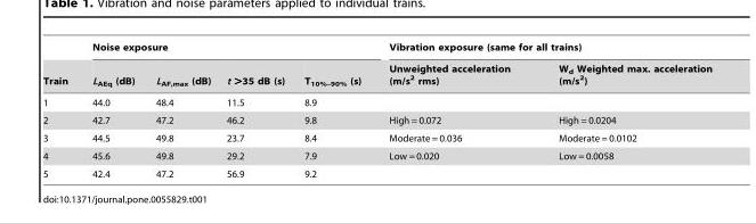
<table><thead><tr><td rowspan="2">Train</td><td colspan="4">Noise exposure</td><td colspan="2">Vibration exposure (same for all trains)</td></tr><tr><td>L<sub>AEq</sub> (dB)</td><td>L<sub>AF,max</sub> (dB)</td><td>t &gt;35 dB (s)</td><td>T<sub>10%–90%</sub> (s)</td><td>Unweighted acceleration (m/s<sup>2</sup> rms)</td><td>W<sub>d</sub> Weighted max. acceleration (m/s<sup>2</sup>)</td></tr></thead><tbody><tr><td>1</td><td>44.0</td><td>48.4</td><td>11.5</td><td>8.9</td><td></td><td></td></tr><tr><td>2</td><td>42.7</td><td>47.2</td><td>46.2</td><td>9.8</td><td>High = 0.072</td><td>High = 0.0204</td></tr><tr><td>3</td><td>44.5</td><td>49.8</td><td>23.7</td><td>8.4</td><td>Moderate = 0.036</td><td>Moderate = 0.0102</td></tr><tr><td>4</td><td>45.6</td><td>49.8</td><td>29.2</td><td>7.9</td><td>Low = 0.020</td><td>Low = 0.0058</td></tr><tr><td>5</td><td>42.4</td><td>47.2</td><td>56.9</td><td>9.2</td><td></td><td></td></tr></tbody></table>